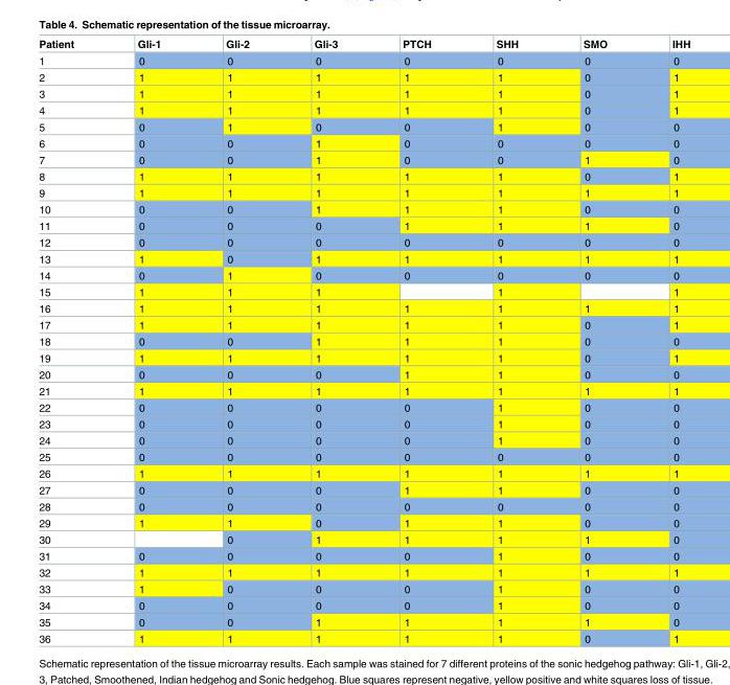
<table><thead><tr><td>Patient</td><td>Gli-1</td><td>Gli-2</td><td>Gli-3</td><td>PTCH</td><td>SHH</td><td>SMO</td><td>IHH</td></tr></thead><tbody><tr><td>1</td><td>0</td><td>0</td><td>0</td><td>0</td><td>0</td><td>0</td><td>0</td></tr><tr><td>2</td><td>1</td><td>1</td><td>1</td><td>1</td><td>1</td><td>0</td><td>1</td></tr><tr><td>3</td><td>1</td><td>1</td><td>1</td><td>1</td><td>1</td><td>0</td><td>1</td></tr><tr><td>4</td><td>1</td><td>1</td><td>1</td><td>1</td><td>1</td><td>0</td><td>1</td></tr><tr><td>5</td><td>0</td><td>1</td><td>0</td><td>0</td><td>1</td><td>0</td><td>0</td></tr><tr><td>6</td><td>0</td><td>0</td><td>1</td><td>0</td><td>0</td><td>0</td><td>0</td></tr><tr><td>7</td><td>0</td><td>0</td><td>1</td><td>0</td><td>0</td><td>1</td><td>0</td></tr><tr><td>8</td><td>1</td><td>1</td><td>1</td><td>1</td><td>1</td><td>0</td><td>1</td></tr><tr><td>9</td><td>1</td><td>1</td><td>1</td><td>1</td><td>1</td><td>1</td><td>1</td></tr><tr><td>10</td><td>0</td><td>0</td><td>1</td><td>1</td><td>1</td><td>0</td><td>0</td></tr><tr><td>11</td><td>0</td><td>0</td><td>0</td><td>1</td><td>1</td><td>1</td><td>0</td></tr><tr><td>12</td><td>0</td><td>0</td><td>0</td><td>0</td><td>0</td><td>0</td><td>0</td></tr><tr><td>13</td><td>1</td><td>0</td><td>1</td><td>1</td><td>1</td><td>1</td><td>1</td></tr><tr><td>14</td><td>0</td><td>1</td><td>0</td><td>0</td><td>0</td><td>0</td><td>0</td></tr><tr><td>15</td><td>1</td><td>1</td><td>1</td><td></td><td>1</td><td></td><td>1</td></tr><tr><td>16</td><td>1</td><td>1</td><td>1</td><td>1</td><td>1</td><td>1</td><td>1</td></tr><tr><td>17</td><td>1</td><td>1</td><td>1</td><td>1</td><td>1</td><td>0</td><td>1</td></tr><tr><td>18</td><td>0</td><td>0</td><td>1</td><td>1</td><td>1</td><td>0</td><td>0</td></tr><tr><td>19</td><td>1</td><td>1</td><td>1</td><td>1</td><td>1</td><td>0</td><td>1</td></tr><tr><td>20</td><td>0</td><td>0</td><td>0</td><td>1</td><td>1</td><td>0</td><td>0</td></tr><tr><td>21</td><td>1</td><td>1</td><td>1</td><td>1</td><td>1</td><td>1</td><td>1</td></tr><tr><td>22</td><td>0</td><td>0</td><td>0</td><td>0</td><td>1</td><td>0</td><td>0</td></tr><tr><td>23</td><td>0</td><td>0</td><td>0</td><td>0</td><td>1</td><td>0</td><td>0</td></tr><tr><td>24</td><td>0</td><td>0</td><td>0</td><td>0</td><td>1</td><td>0</td><td>0</td></tr><tr><td>25</td><td>0</td><td>0</td><td>0</td><td>0</td><td>0</td><td>0</td><td>0</td></tr><tr><td>26</td><td>1</td><td>1</td><td>1</td><td>1</td><td>1</td><td>1</td><td>1</td></tr><tr><td>27</td><td>0</td><td>0</td><td>0</td><td>1</td><td>1</td><td>0</td><td>0</td></tr><tr><td>28</td><td>0</td><td>0</td><td>0</td><td>0</td><td>0</td><td>0</td><td>0</td></tr><tr><td>29</td><td>1</td><td>1</td><td>0</td><td>1</td><td>1</td><td>0</td><td>0</td></tr><tr><td>30</td><td></td><td>0</td><td>1</td><td>1</td><td>1</td><td>1</td><td>0</td></tr><tr><td>31</td><td>0</td><td>0</td><td>0</td><td>0</td><td>1</td><td>0</td><td>0</td></tr><tr><td>32</td><td>1</td><td>1</td><td>1</td><td>1</td><td>1</td><td>1</td><td>1</td></tr><tr><td>33</td><td>1</td><td>0</td><td>0</td><td>0</td><td>1</td><td>0</td><td>0</td></tr><tr><td>34</td><td>0</td><td>0</td><td>0</td><td>0</td><td>1</td><td>0</td><td>0</td></tr><tr><td>35</td><td>0</td><td>0</td><td>1</td><td>1</td><td>1</td><td>1</td><td>0</td></tr><tr><td>36</td><td>1</td><td>1</td><td>1</td><td>1</td><td>1</td><td>0</td><td>1</td></tr></tbody></table>